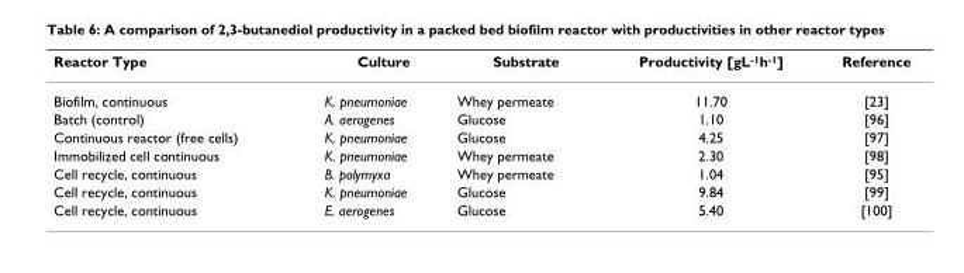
<table><thead><tr><td>Reactor Type</td><td>Culture</td><td>Substrate</td><td>Productivity [gL<sup>-1</sup>h<sup>-1</sup>]</td><td>Reference</td></tr></thead><tbody><tr><td>Biofilm, continuous</td><td>K. pneumoniae</td><td>Whey permeate</td><td>11.70</td><td>[23]</td></tr><tr><td>Batch (control)</td><td>A. aerogenes</td><td>Glucose</td><td>1.10</td><td>[96]</td></tr><tr><td>Continuous reactor (free cells)</td><td>K. pneumoniae</td><td>Glucose</td><td>4.25</td><td>[97]</td></tr><tr><td>Immobilized cell continuous</td><td>K. pneumoniae</td><td>Whey permeate</td><td>2.30</td><td>[98]</td></tr><tr><td>Cell recycle, continuous</td><td>B. polymyxa</td><td>Whey permeate</td><td>1.04</td><td>[95]</td></tr><tr><td>Cell recycle, continuous</td><td>K. pneumoniae</td><td>Glucose</td><td>9.84</td><td>[99]</td></tr><tr><td>Cell recycle, continuous</td><td>E. aerogenes</td><td>Glucose</td><td>5.40</td><td>[100]</td></tr></tbody></table>